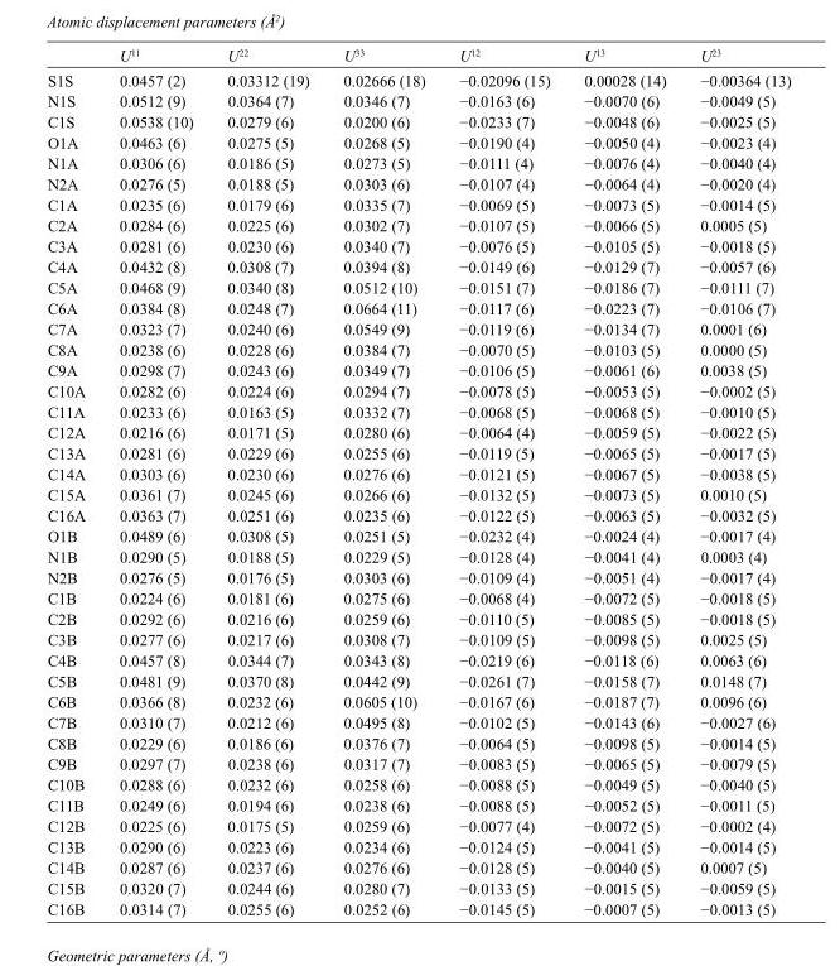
<table><thead><tr><td></td><td>U<sup>11</sup></td><td>U<sup>22</sup></td><td>U<sup>33</sup></td><td>U<sup>12</sup></td><td>U<sup>13</sup></td><td>U<sup>23</sup></td></tr></thead><tbody><tr><td>S1S</td><td>0.0457 (2)</td><td>0.03312 (19)</td><td>0.02666 (18)</td><td>−0.02096 (15)</td><td>0.00028 (14)</td><td>−0.00364 (13)</td></tr><tr><td>N1S</td><td>0.0512 (9)</td><td>0.0364 (7)</td><td>0.0346 (7)</td><td>−0.0163 (6)</td><td>−0.0070 (6)</td><td>−0.0049 (5)</td></tr><tr><td>C1S</td><td>0.0538 (10)</td><td>0.0279 (6)</td><td>0.0200 (6)</td><td>−0.0233 (7)</td><td>−0.0048 (6)</td><td>−0.0025 (5)</td></tr><tr><td>O1A</td><td>0.0463 (6)</td><td>0.0275 (5)</td><td>0.0268 (5)</td><td>−0.0190 (4)</td><td>−0.0050 (4)</td><td>−0.0023 (4)</td></tr><tr><td>N1A</td><td>0.0306 (6)</td><td>0.0186 (5)</td><td>0.0273 (5)</td><td>−0.0111 (4)</td><td>−0.0076 (4)</td><td>−0.0040 (4)</td></tr><tr><td>N2A</td><td>0.0276 (5)</td><td>0.0188 (5)</td><td>0.0303 (6)</td><td>−0.0107 (4)</td><td>−0.0064 (4)</td><td>−0.0020 (4)</td></tr><tr><td>C1A</td><td>0.0235 (6)</td><td>0.0179 (6)</td><td>0.0335 (7)</td><td>−0.0069 (5)</td><td>−0.0073 (5)</td><td>−0.0014 (5)</td></tr><tr><td>C2A</td><td>0.0284 (6)</td><td>0.0225 (6)</td><td>0.0302 (7)</td><td>−0.0107 (5)</td><td>−0.0066 (5)</td><td>0.0005 (5)</td></tr><tr><td>C3A</td><td>0.0281 (6)</td><td>0.0230 (6)</td><td>0.0340 (7)</td><td>−0.0076 (5)</td><td>−0.0105 (5)</td><td>−0.0018 (5)</td></tr><tr><td>C4A</td><td>0.0432 (8)</td><td>0.0308 (7)</td><td>0.0394 (8)</td><td>−0.0149 (6)</td><td>−0.0129 (7)</td><td>−0.0057 (6)</td></tr><tr><td>C5A</td><td>0.0468 (9)</td><td>0.0340 (8)</td><td>0.0512 (10)</td><td>−0.0151 (7)</td><td>−0.0186 (7)</td><td>−0.0111 (7)</td></tr><tr><td>C6A</td><td>0.0384 (8)</td><td>0.0248 (7)</td><td>0.0664 (11)</td><td>−0.0117 (6)</td><td>−0.0223 (7)</td><td>−0.0106 (7)</td></tr><tr><td>C7A</td><td>0.0323 (7)</td><td>0.0240 (6)</td><td>0.0549 (9)</td><td>−0.0119 (6)</td><td>−0.0134 (7)</td><td>0.0001 (6)</td></tr><tr><td>C8A</td><td>0.0238 (6)</td><td>0.0228 (6)</td><td>0.0384 (7)</td><td>−0.0070 (5)</td><td>−0.0103 (5)</td><td>0.0000 (5)</td></tr><tr><td>C9A</td><td>0.0298 (7)</td><td>0.0243 (6)</td><td>0.0349 (7)</td><td>−0.0106 (5)</td><td>−0.0061 (6)</td><td>0.0038 (5)</td></tr><tr><td>C10A</td><td>0.0282 (6)</td><td>0.0224 (6)</td><td>0.0294 (7)</td><td>−0.0078 (5)</td><td>−0.0053 (5)</td><td>−0.0002 (5)</td></tr><tr><td>C11A</td><td>0.0233 (6)</td><td>0.0163 (5)</td><td>0.0332 (7)</td><td>−0.0068 (5)</td><td>−0.0068 (5)</td><td>−0.0010 (5)</td></tr><tr><td>C12A</td><td>0.0216 (6)</td><td>0.0171 (5)</td><td>0.0280 (6)</td><td>−0.0064 (4)</td><td>−0.0059 (5)</td><td>−0.0022 (5)</td></tr><tr><td>C13A</td><td>0.0281 (6)</td><td>0.0229 (6)</td><td>0.0255 (6)</td><td>−0.0119 (5)</td><td>−0.0065 (5)</td><td>−0.0017 (5)</td></tr><tr><td>C14A</td><td>0.0303 (6)</td><td>0.0230 (6)</td><td>0.0276 (6)</td><td>−0.0121 (5)</td><td>−0.0067 (5)</td><td>−0.0038 (5)</td></tr><tr><td>C15A</td><td>0.0361 (7)</td><td>0.0245 (6)</td><td>0.0266 (6)</td><td>−0.0132 (5)</td><td>−0.0073 (5)</td><td>0.0010 (5)</td></tr><tr><td>C16A</td><td>0.0363 (7)</td><td>0.0251 (6)</td><td>0.0235 (6)</td><td>−0.0122 (5)</td><td>−0.0063 (5)</td><td>−0.0032 (5)</td></tr><tr><td>O1B</td><td>0.0489 (6)</td><td>0.0308 (5)</td><td>0.0251 (5)</td><td>−0.0232 (4)</td><td>−0.0024 (4)</td><td>−0.0017 (4)</td></tr><tr><td>N1B</td><td>0.0290 (5)</td><td>0.0188 (5)</td><td>0.0229 (5)</td><td>−0.0128 (4)</td><td>−0.0041 (4)</td><td>0.0003 (4)</td></tr><tr><td>N2B</td><td>0.0276 (5)</td><td>0.0176 (5)</td><td>0.0303 (6)</td><td>−0.0109 (4)</td><td>−0.0051 (4)</td><td>−0.0017 (4)</td></tr><tr><td>C1B</td><td>0.0224 (6)</td><td>0.0181 (6)</td><td>0.0275 (6)</td><td>−0.0068 (4)</td><td>−0.0072 (5)</td><td>−0.0018 (5)</td></tr><tr><td>C2B</td><td>0.0292 (6)</td><td>0.0216 (6)</td><td>0.0259 (6)</td><td>−0.0110 (5)</td><td>−0.0085 (5)</td><td>−0.0018 (5)</td></tr><tr><td>C3B</td><td>0.0277 (6)</td><td>0.0217 (6)</td><td>0.0308 (7)</td><td>−0.0109 (5)</td><td>−0.0098 (5)</td><td>0.0025 (5)</td></tr><tr><td>C4B</td><td>0.0457 (8)</td><td>0.0344 (7)</td><td>0.0343 (8)</td><td>−0.0219 (6)</td><td>−0.0118 (6)</td><td>0.0063 (6)</td></tr><tr><td>C5B</td><td>0.0481 (9)</td><td>0.0370 (8)</td><td>0.0442 (9)</td><td>−0.0261 (7)</td><td>−0.0158 (7)</td><td>0.0148 (7)</td></tr><tr><td>C6B</td><td>0.0366 (8)</td><td>0.0232 (6)</td><td>0.0605 (10)</td><td>−0.0167 (6)</td><td>−0.0187 (7)</td><td>0.0096 (6)</td></tr><tr><td>C7B</td><td>0.0310 (7)</td><td>0.0212 (6)</td><td>0.0495 (8)</td><td>−0.0102 (5)</td><td>−0.0143 (6)</td><td>−0.0027 (6)</td></tr><tr><td>C8B</td><td>0.0229 (6)</td><td>0.0186 (6)</td><td>0.0376 (7)</td><td>−0.0064 (5)</td><td>−0.0098 (5)</td><td>−0.0014 (5)</td></tr><tr><td>C9B</td><td>0.0297 (7)</td><td>0.0238 (6)</td><td>0.0317 (7)</td><td>−0.0083 (5)</td><td>−0.0065 (5)</td><td>−0.0079 (5)</td></tr><tr><td>C10B</td><td>0.0288 (6)</td><td>0.0232 (6)</td><td>0.0258 (6)</td><td>−0.0088 (5)</td><td>−0.0049 (5)</td><td>−0.0040 (5)</td></tr><tr><td>C11B</td><td>0.0249 (6)</td><td>0.0194 (6)</td><td>0.0238 (6)</td><td>−0.0088 (5)</td><td>−0.0052 (5)</td><td>−0.0011 (5)</td></tr><tr><td>C12B</td><td>0.0225 (6)</td><td>0.0175 (5)</td><td>0.0259 (6)</td><td>−0.0077 (4)</td><td>−0.0072 (5)</td><td>−0.0002 (4)</td></tr><tr><td>C13B</td><td>0.0290 (6)</td><td>0.0223 (6)</td><td>0.0234 (6)</td><td>−0.0124 (5)</td><td>−0.0041 (5)</td><td>−0.0014 (5)</td></tr><tr><td>C14B</td><td>0.0287 (6)</td><td>0.0237 (6)</td><td>0.0276 (6)</td><td>−0.0128 (5)</td><td>−0.0040 (5)</td><td>0.0007 (5)</td></tr><tr><td>C15B</td><td>0.0320 (7)</td><td>0.0244 (6)</td><td>0.0280 (7)</td><td>−0.0133 (5)</td><td>−0.0015 (5)</td><td>−0.0059 (5)</td></tr><tr><td>C16B</td><td>0.0314 (7)</td><td>0.0255 (6)</td><td>0.0252 (6)</td><td>−0.0145 (5)</td><td>−0.0007 (5)</td><td>−0.0013 (5)</td></tr></tbody></table>